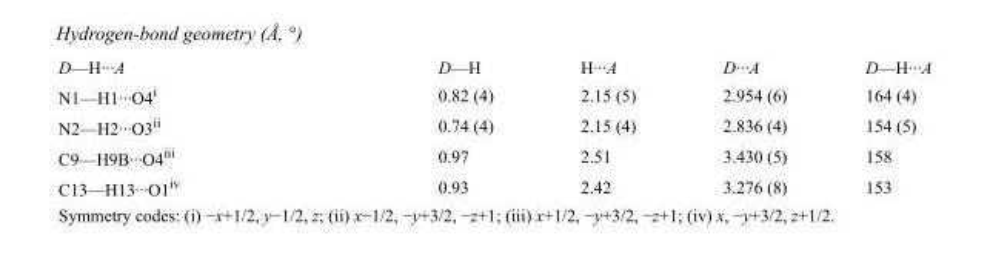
<table><tbody><tr><td>D—H···A</td><td>D—H</td><td>H···A</td><td>D···A</td><td>D—H···A</td></tr><tr><td>N1—H1···O4<sup>i</sup></td><td>0.82 (4)</td><td>2.15 (5)</td><td>2.954 (6)</td><td>164 (4)</td></tr><tr><td>N2—H2···O3<sup>ii</sup></td><td>0.74 (4)</td><td>2.15 (4)</td><td>2.836 (4)</td><td>154 (5)</td></tr><tr><td>C9—H9B···O4<sup>iii</sup></td><td>0.97</td><td>2.51</td><td>3.430 (5)</td><td>158</td></tr><tr><td>C13—H13···O1<sup>iv</sup></td><td>0.93</td><td>2.42</td><td>3.276 (8)</td><td>153</td></tr></tbody></table>